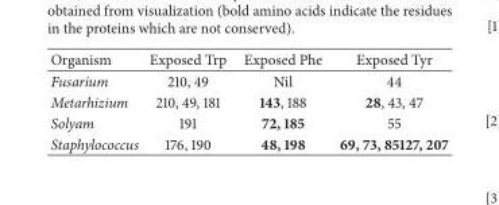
<table><thead><tr><td>Organism</td><td>Exposed Trp</td><td>Exposed Phe</td><td>Exposed Tyr</td></tr></thead><tbody><tr><td>Fusarium</td><td>210, 49</td><td>Nil</td><td>44</td></tr><tr><td>Metarhizium</td><td>210, 49, 181</td><td>143, 188</td><td>28, 43, 47</td></tr><tr><td>Solyam</td><td>191</td><td>72, 185</td><td>55</td></tr><tr><td>Staphylococcus</td><td>176, 190</td><td>48, 198</td><td>69, 73, 85127, 207</td></tr></tbody></table>